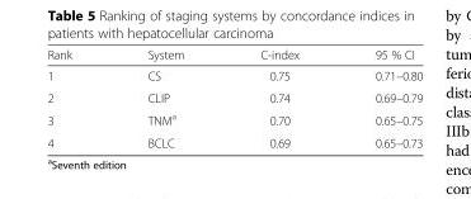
<table><thead><tr><td>Rank</td><td>System</td><td>C-index</td><td>95 % CI</td></tr></thead><tbody><tr><td>1</td><td>CS</td><td>0.75</td><td>0.71–0.80</td></tr><tr><td>2</td><td>CLIP</td><td>0.74</td><td>0.69–0.79</td></tr><tr><td>3</td><td>TNM<sup>a</sup></td><td>0.70</td><td>0.65–0.75</td></tr><tr><td>4</td><td>BCLC</td><td>0.69</td><td>0.65–0.73</td></tr></tbody></table>